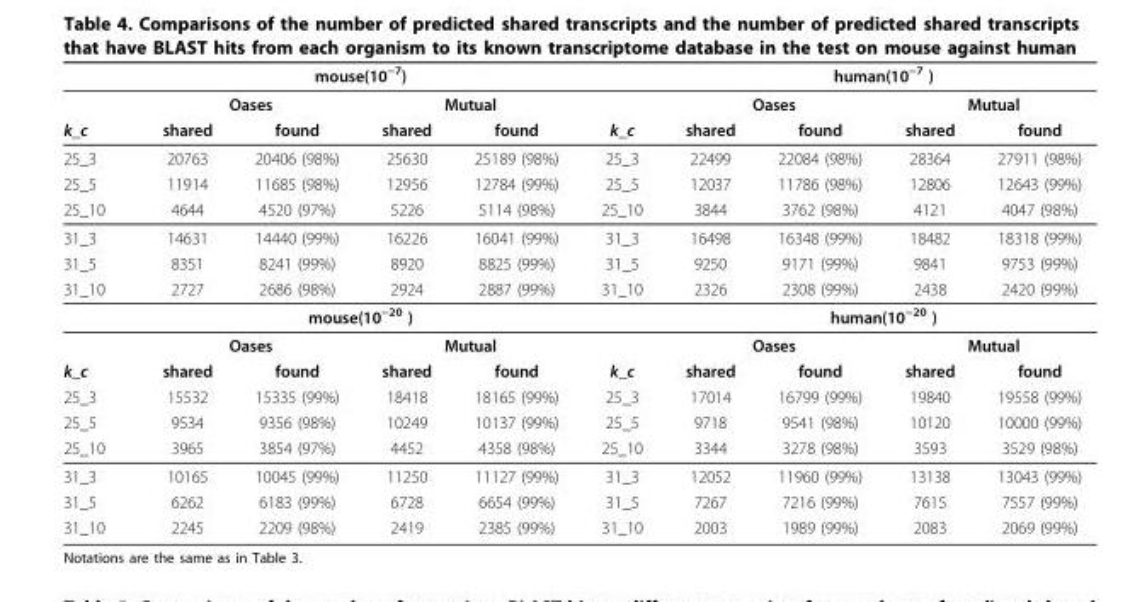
<table><thead><tr><td rowspan="3">k_c</td><td colspan="4">mouse(10<sup>−7</sup>)</td><td rowspan="3">k_c</td><td colspan="4">human(10<sup>−7</sup> )</td></tr><tr><td colspan="2">Oases</td><td colspan="2">Mutual</td><td colspan="2">Oases</td><td colspan="2">Mutual</td></tr><tr><td>shared</td><td>found</td><td>shared</td><td>found</td><td>shared</td><td>found</td><td>shared</td><td>found</td></tr></thead><tbody><tr><td>25_3</td><td>20763</td><td>20406 (98%)</td><td>25630</td><td>25189 (98%)</td><td>25_3</td><td>22499</td><td>22084 (98%)</td><td>28364</td><td>27911 (98%)</td></tr><tr><td>25_5</td><td>11914</td><td>11685 (98%)</td><td>12956</td><td>12784 (99%)</td><td>25_5</td><td>12037</td><td>11786 (98%)</td><td>12806</td><td>12643 (99%)</td></tr><tr><td>25_10</td><td>4644</td><td>4520 (97%)</td><td>5226</td><td>5114 (98%)</td><td>25_10</td><td>3844</td><td>3762 (98%)</td><td>4121</td><td>4047 (98%)</td></tr><tr><td>31_3</td><td>14631</td><td>14440 (99%)</td><td>16226</td><td>16041 (99%)</td><td>31_3</td><td>16498</td><td>16348 (99%)</td><td>18482</td><td>18318 (99%)</td></tr><tr><td>31_5</td><td>8351</td><td>8241 (99%)</td><td>8920</td><td>8825 (99%)</td><td>31_5</td><td>9250</td><td>9171 (99%)</td><td>9841</td><td>9753 (99%)</td></tr><tr><td rowspan="3">31_10</td><td>2727</td><td>2686 (98%)</td><td>2924</td><td>2887 (99%)</td><td>31_10</td><td>2326</td><td>2308 (99%)</td><td>2438</td><td>2420 (99%)</td></tr><tr><td colspan="4">mouse(10<sup>−20</sup> )</td><td></td><td colspan="4">human(10<sup>−20</sup> )</td></tr><tr><td colspan="2">Oases</td><td colspan="2">Mutual</td><td></td><td colspan="2">Oases</td><td colspan="2">Mutual</td></tr><tr><td>k_c</td><td>shared</td><td>found</td><td>shared</td><td>found</td><td>k_c</td><td>shared</td><td>found</td><td>shared</td><td>found</td></tr><tr><td>25_3</td><td>15532</td><td>15335 (99%)</td><td>18418</td><td>18165 (99%)</td><td>25_3</td><td>17014</td><td>16799 (99%)</td><td>19840</td><td>19558 (99%)</td></tr><tr><td>25_5</td><td>9534</td><td>9356 (98%)</td><td>10249</td><td>10137 (99%)</td><td>25_5</td><td>9718</td><td>9541 (98%)</td><td>10120</td><td>10000 (99%)</td></tr><tr><td>25_10</td><td>3965</td><td>3854 (97%)</td><td>4452</td><td>4358 (98%)</td><td>25_10</td><td>3344</td><td>3278 (98%)</td><td>3593</td><td>3529 (98%)</td></tr><tr><td>31_3</td><td>10165</td><td>10045 (99%)</td><td>11250</td><td>11127 (99%)</td><td>31_3</td><td>12052</td><td>11960 (99%)</td><td>13138</td><td>13043 (99%)</td></tr><tr><td>31_5</td><td>6262</td><td>6183 (99%)</td><td>6728</td><td>6654 (99%)</td><td>31_5</td><td>7267</td><td>7216 (99%)</td><td>7615</td><td>7557 (99%)</td></tr><tr><td>31_10</td><td>2245</td><td>2209 (98%)</td><td>2419</td><td>2385 (99%)</td><td>31_10</td><td>2003</td><td>1989 (99%)</td><td>2083</td><td>2069 (99%)</td></tr></tbody></table>